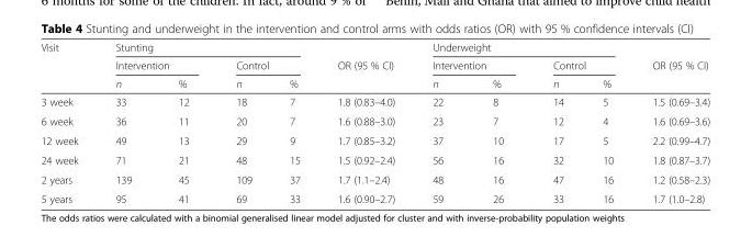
<table><thead><tr><td rowspan="3">Visit</td><td colspan="4">Stunting</td><td rowspan="3">OR (95 % CI)</td><td colspan="4">Underweight</td><td rowspan="3">OR (95 % CI)</td></tr><tr><td colspan="2">Intervention</td><td colspan="2">Control</td><td colspan="2">Intervention</td><td colspan="2">Control</td></tr><tr><td>n</td><td>%</td><td>n</td><td>%</td><td>n</td><td>%</td><td>n</td><td>%</td></tr></thead><tbody><tr><td>3 week</td><td>33</td><td>12</td><td>18</td><td>7</td><td>1.8 (0.83–4.0)</td><td>22</td><td>8</td><td>14</td><td>5</td><td>1.5 (0.69–3.4)</td></tr><tr><td>6 week</td><td>36</td><td>11</td><td>20</td><td>7</td><td>1.6 (0.88–3.0)</td><td>23</td><td>7</td><td>12</td><td>4</td><td>1.6 (0.69–3.6)</td></tr><tr><td>12 week</td><td>49</td><td>13</td><td>29</td><td>9</td><td>1.7 (0.85–3.2)</td><td>37</td><td>10</td><td>17</td><td>5</td><td>2.2 (0.99–4.7)</td></tr><tr><td>24 week</td><td>71</td><td>21</td><td>48</td><td>15</td><td>1.5 (0.92–2.4)</td><td>56</td><td>16</td><td>32</td><td>10</td><td>1.8 (0.87–3.7)</td></tr><tr><td>2 years</td><td>139</td><td>45</td><td>109</td><td>37</td><td>1.7 (1.1–2.4)</td><td>48</td><td>16</td><td>47</td><td>16</td><td>1.2 (0.58–2.3)</td></tr><tr><td>5 years</td><td>95</td><td>41</td><td>69</td><td>33</td><td>1.6 (0.90–2.7)</td><td>59</td><td>26</td><td>33</td><td>16</td><td>1.7 (1.0–2.8)</td></tr></tbody></table>